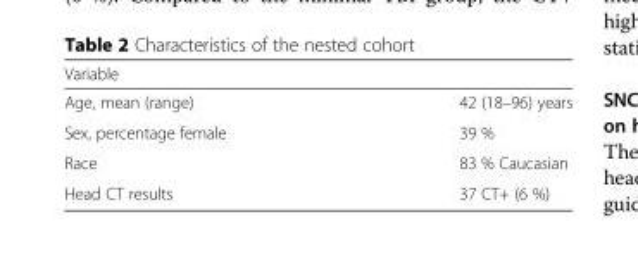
<table><thead><tr><td>Variable</td><td></td></tr></thead><tbody><tr><td>Age, mean (range)</td><td>42 (18–96) years</td></tr><tr><td>Sex, percentage female</td><td>39 %</td></tr><tr><td>Race</td><td>83 % Caucasian</td></tr><tr><td>Head CT results</td><td>37 CT+ (6 %)</td></tr></tbody></table>